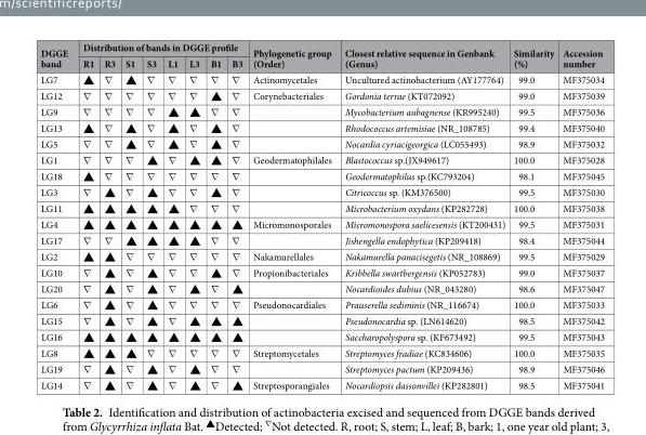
<table><thead><tr><td rowspan="2">DGGE band</td><td colspan="8">Distribution of bands in DGGE profile</td><td rowspan="2">Phylogenetic group (Order)</td><td rowspan="2">Closest relative sequence in Genbank (Genus)</td><td rowspan="2">Similarity (%)</td><td rowspan="2">Accession number</td></tr><tr><td>R1</td><td>R3</td><td>S1</td><td>S3</td><td>L1</td><td>L3</td><td>B1</td><td>B3</td></tr></thead><tbody><tr><td>LG7</td><td>▲</td><td>∇</td><td>▲</td><td>∇</td><td>∇</td><td>∇</td><td>∇</td><td>∇</td><td>Actinomycetales</td><td>Uncultured actinobacterium (AY177764)</td><td>99.0</td><td>MF375034</td></tr><tr><td>LG12</td><td>∇</td><td>∇</td><td>∇</td><td>∇</td><td>∇</td><td>∇</td><td>▲</td><td>∇</td><td>Corynebacteriales</td><td>Gordonia terrae (KT072092)</td><td>99.0</td><td>MF375039</td></tr><tr><td>LG9</td><td>∇</td><td>∇</td><td>∇</td><td>∇</td><td>▲</td><td>▲</td><td>∇</td><td>∇</td><td></td><td>Mycobacterium aubagnense (KR995240)</td><td>99.5</td><td>MF375036</td></tr><tr><td>LG13</td><td>▲</td><td>∇</td><td>▲</td><td>∇</td><td>▲</td><td>∇</td><td>▲</td><td>∇</td><td></td><td>Rhodococcus artemisiae (NR_108785)</td><td>99.4</td><td>MF375040</td></tr><tr><td>LG5</td><td>∇</td><td>∇</td><td>▲</td><td>∇</td><td>▲</td><td>∇</td><td>▲</td><td>∇</td><td></td><td>Nocardia cyriacigeorgica (LC055493)</td><td>98.9</td><td>MF375032</td></tr><tr><td>LG1</td><td>∇</td><td>∇</td><td>∇</td><td>▲</td><td>∇</td><td>▲</td><td>▲</td><td>∇</td><td>Geodermatophilales</td><td>Blastococcus sp.(JX949617)</td><td>100.0</td><td>MF375028</td></tr><tr><td>LG18</td><td>▲</td><td>∇</td><td>∇</td><td>∇</td><td>∇</td><td>∇</td><td>∇</td><td>∇</td><td></td><td>Geodermatophilus sp.(KC793204)</td><td>98.1</td><td>MF375045</td></tr><tr><td>LG3</td><td>∇</td><td>▲</td><td>∇</td><td>▲</td><td>∇</td><td>∇</td><td>▲</td><td>∇</td><td></td><td>Citricoccus sp. (KM376500)</td><td>99.5</td><td>MF375030</td></tr><tr><td>LG11</td><td>▲</td><td>▲</td><td>▲</td><td>▲</td><td>▲</td><td>∇</td><td>∇</td><td>∇</td><td></td><td>Microbacterium oxydans (KP282728)</td><td>100.0</td><td>MF375038</td></tr><tr><td>LG4</td><td>▲</td><td>▲</td><td>▲</td><td>▲</td><td>▲</td><td>▲</td><td>▲</td><td>▲</td><td>Micromonosporales</td><td>Micromonospora saelicesensis (KT200431)</td><td>99.5</td><td>MF375031</td></tr><tr><td>LG17</td><td>∇</td><td>∇</td><td>▲</td><td>▲</td><td>▲</td><td>▲</td><td>∇</td><td>∇</td><td></td><td>Jishengella endophytica (KP209418)</td><td>98.4</td><td>MF375044</td></tr><tr><td>LG2</td><td>▲</td><td>▲</td><td>∇</td><td>∇</td><td>∇</td><td>∇</td><td>∇</td><td>∇</td><td>Nakamurellales</td><td>Nakamurella panacisegetis (NR_108869)</td><td>99.5</td><td>MF375029</td></tr><tr><td>LG10</td><td>∇</td><td>▲</td><td>∇</td><td>▲</td><td>∇</td><td>∇</td><td>▲</td><td>∇</td><td>Propionibacteriales</td><td>Kribbella swartbergensis (KP052783)</td><td>99.0</td><td>MF375037</td></tr><tr><td>LG20</td><td>∇</td><td>▲</td><td>∇</td><td>▲</td><td>∇</td><td>▲</td><td>∇</td><td>▲</td><td></td><td>Nocardioides dubius (NR_043280)</td><td>98.6</td><td>MF375047</td></tr><tr><td>LG6</td><td>∇</td><td>▲</td><td>∇</td><td>▲</td><td>∇</td><td>∇</td><td>∇</td><td>∇</td><td>Pseudonocardiales</td><td>Prauserella sediminis (NR_116674)</td><td>100.0</td><td>MF375033</td></tr><tr><td>LG15</td><td>∇</td><td>▲</td><td>∇</td><td>▲</td><td>∇</td><td>▲</td><td>▲</td><td>▲</td><td></td><td>Pseudonocardia sp. (LN614620)</td><td>98.5</td><td>MF375042</td></tr><tr><td>LG16</td><td>▲</td><td>▲</td><td>▲</td><td>▲</td><td>▲</td><td>▲</td><td>▲</td><td>▲</td><td></td><td>Saccharopolyspora sp. (KF673492)</td><td>99.5</td><td>MF375043</td></tr><tr><td>LG8</td><td>▲</td><td>▲</td><td>▲</td><td>∇</td><td>∇</td><td>∇</td><td>∇</td><td>∇</td><td>Streptomycetales</td><td>Streptomyces fradiae (KC834606)</td><td>100.0</td><td>MF375035</td></tr><tr><td>LG19</td><td>∇</td><td>▲</td><td>∇</td><td>▲</td><td>∇</td><td>▲</td><td>∇</td><td>∇</td><td></td><td>Streptomyces pactum (KP209436)</td><td>98.9</td><td>MF375046</td></tr><tr><td>LG14</td><td>∇</td><td>▲</td><td>∇</td><td>▲</td><td>∇</td><td>▲</td><td>∇</td><td>▲</td><td>Streptosporangiales</td><td>Nocardiopsis dassonvillei (KP282801)</td><td>98.5</td><td>MF375041</td></tr></tbody></table>